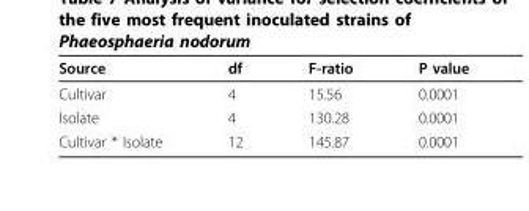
<table><thead><tr><td>Source</td><td>df</td><td>F-ratio</td><td>P value</td></tr></thead><tbody><tr><td>Cultivar</td><td>4</td><td>15.56</td><td>0.0001</td></tr><tr><td>Isolate</td><td>4</td><td>130.28</td><td>0.0001</td></tr><tr><td>Cultivar * Isolate</td><td>12</td><td>145.87</td><td>0.0001</td></tr></tbody></table>